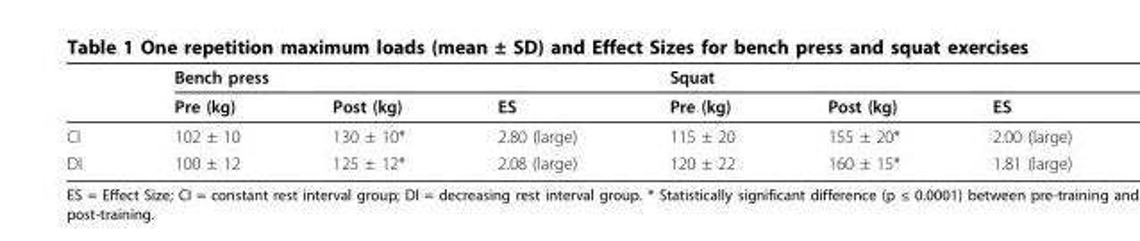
<table><thead><tr><td rowspan="2"></td><td colspan="3">Bench press</td><td colspan="3">Squat</td></tr><tr><td>Pre (kg)</td><td>Post (kg)</td><td>ES</td><td>Pre (kg)</td><td>Post (kg)</td><td>ES</td></tr></thead><tbody><tr><td>CI</td><td>102 ± 10</td><td>130 ± 10*</td><td>2.80 (large)</td><td>115 ± 20</td><td>155 ± 20*</td><td>2.00 (large)</td></tr><tr><td>DI</td><td>100 ± 12</td><td>125 ± 12*</td><td>2.08 (large)</td><td>120 ± 22</td><td>160 ± 15*</td><td>1.81 (large)</td></tr></tbody></table>